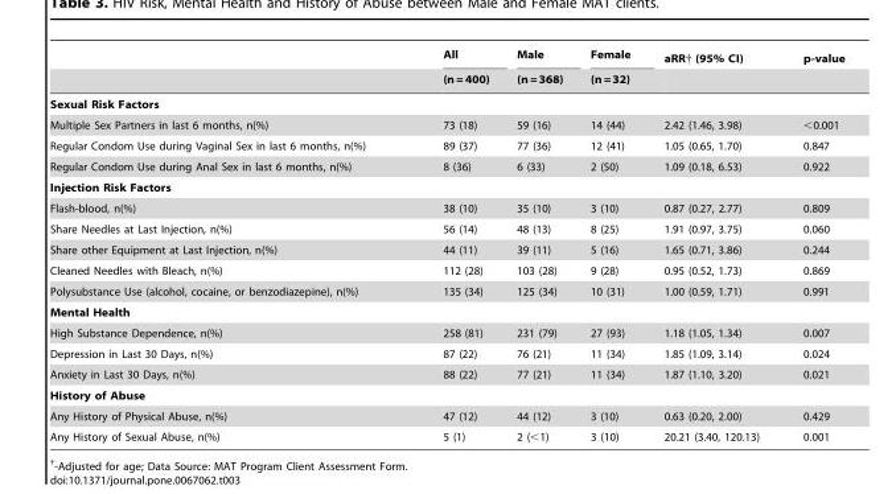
<table><thead><tr><td rowspan="2"></td><td rowspan="2">All (n = 400)</td><td rowspan="2">Male (n = 368)</td><td rowspan="2">Female (n = 32)</td><td rowspan="2">aRR† (95% CI)</td><td rowspan="2">p-value</td></tr><tr></tr></thead><tbody><tr><td colspan="6">Sexual Risk Factors</td></tr><tr><td>Multiple Sex Partners in last 6 months, n(%)</td><td>73 (18)</td><td>59 (16)</td><td>14 (44)</td><td>2.42 (1.46, 3.98)</td><td>&lt;0.001</td></tr><tr><td>Regular Condom Use during Vaginal Sex in last 6 months, n(%)</td><td>89 (37)</td><td>77 (36)</td><td>12 (41)</td><td>1.05 (0.65, 1.70)</td><td>0.847</td></tr><tr><td>Regular Condom Use during Anal Sex in last 6 months, n(%)</td><td>8 (36)</td><td>6 (33)</td><td>2 (50)</td><td>1.09 (0.18, 6.53)</td><td>0.922</td></tr><tr><td colspan="6">Injection Risk Factors</td></tr><tr><td>Flash-blood, n(%)</td><td>38 (10)</td><td>35 (10)</td><td>3 (10)</td><td>0.87 (0.27, 2.77)</td><td>0.809</td></tr><tr><td>Share Needles at Last Injection, n(%)</td><td>56 (14)</td><td>48 (13)</td><td>8 (25)</td><td>1.91 (0.97, 3.75)</td><td>0.060</td></tr><tr><td>Share other Equipment at Last Injection, n(%)</td><td>44 (11)</td><td>39 (11)</td><td>5 (16)</td><td>1.65 (0.71, 3.86)</td><td>0.244</td></tr><tr><td>Cleaned Needles with Bleach, n(%)</td><td>112 (28)</td><td>103 (28)</td><td>9 (28)</td><td>0.95 (0.52, 1.73)</td><td>0.869</td></tr><tr><td>Polysubstance Use (alcohol, cocaine, or benzodiazepine), n(%)</td><td>135 (34)</td><td>125 (34)</td><td>10 (31)</td><td>1.00 (0.59, 1.71)</td><td>0.991</td></tr><tr><td colspan="6">Mental Health</td></tr><tr><td>High Substance Dependence, n(%)</td><td>258 (81)</td><td>231 (79)</td><td>27 (93)</td><td>1.18 (1.05, 1.34)</td><td>0.007</td></tr><tr><td>Depression in Last 30 Days, n(%)</td><td>87 (22)</td><td>76 (21)</td><td>11 (34)</td><td>1.85 (1.09, 3.14)</td><td>0.024</td></tr><tr><td>Anxiety in Last 30 Days, n(%)</td><td>88 (22)</td><td>77 (21)</td><td>11 (34)</td><td>1.87 (1.10, 3.20)</td><td>0.021</td></tr><tr><td colspan="6">History of Abuse</td></tr><tr><td>Any History of Physical Abuse, n(%)</td><td>47 (12)</td><td>44 (12)</td><td>3 (10)</td><td>0.63 (0.20, 2.00)</td><td>0.429</td></tr><tr><td>Any History of Sexual Abuse, n(%)</td><td>5 (1)</td><td>2 (&lt;1)</td><td>3 (10)</td><td>20.21 (3.40, 120.13)</td><td>0.001</td></tr></tbody></table>